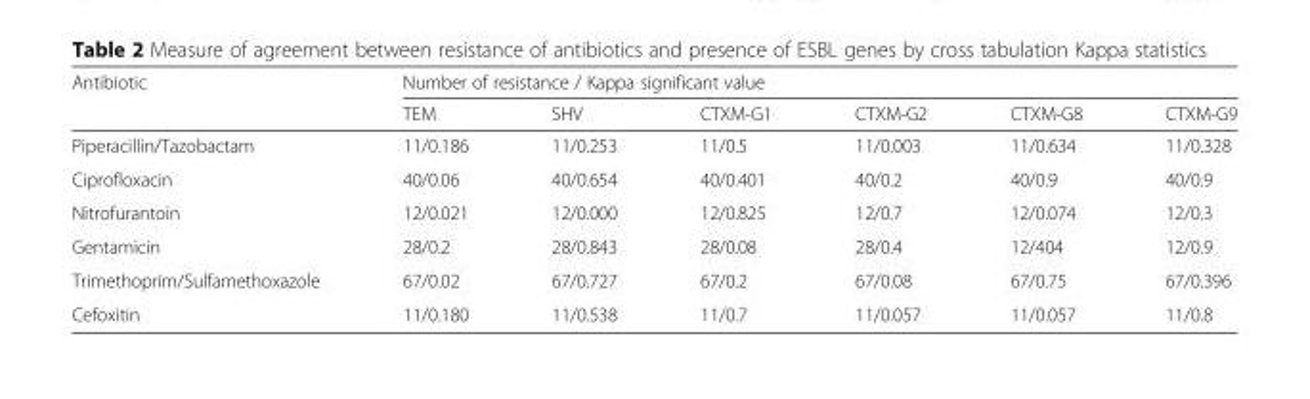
<table><thead><tr><td rowspan="2">Antibiotic</td><td colspan="6">Number of resistance / Kappa significant value</td></tr><tr><td>TEM</td><td>SHV</td><td>CTXM-G1</td><td>CTXM-G2</td><td>CTXM-G8</td><td>CTXM-G9</td></tr></thead><tbody><tr><td>Piperacillin/Tazobactam</td><td>11/0.186</td><td>11/0.253</td><td>11/0.5</td><td>11/0.003</td><td>11/0.634</td><td>11/0.328</td></tr><tr><td>Ciprofloxacin</td><td>40/0.06</td><td>40/0.654</td><td>40/0.401</td><td>40/0.2</td><td>40/0.9</td><td>40/0.9</td></tr><tr><td>Nitrofurantoin</td><td>12/0.021</td><td>12/0.000</td><td>12/0.825</td><td>12/0.7</td><td>12/0.074</td><td>12/0.3</td></tr><tr><td>Gentamicin</td><td>28/0.2</td><td>28/0.843</td><td>28/0.08</td><td>28/0.4</td><td>12/404</td><td>12/0.9</td></tr><tr><td>Trimethoprim/Sulfamethoxazole</td><td>67/0.02</td><td>67/0.727</td><td>67/0.2</td><td>67/0.08</td><td>67/0.75</td><td>67/0.396</td></tr><tr><td>Cefoxitin</td><td>11/0.180</td><td>11/0.538</td><td>11/0.7</td><td>11/0.057</td><td>11/0.057</td><td>11/0.8</td></tr></tbody></table>